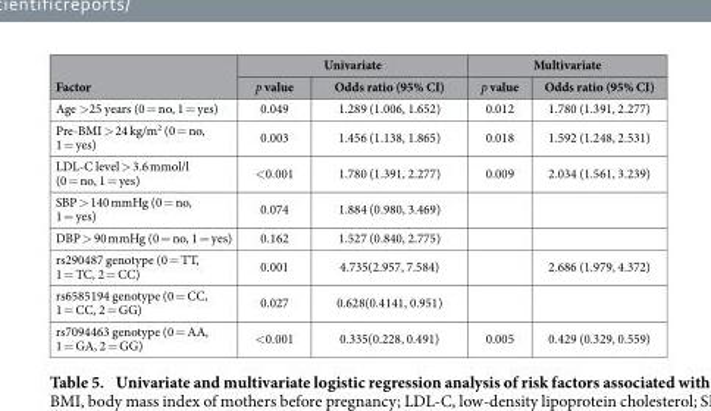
<table><thead><tr><td rowspan="2">Factor</td><td colspan="2">Univariate</td><td colspan="2">Multivariate</td></tr><tr><td>p value</td><td>Odds ratio (95% CI)</td><td>p value</td><td>Odds ratio (95% CI)</td></tr></thead><tbody><tr><td>Age &gt; 25 years (0 = no, 1 = yes)</td><td>0.049</td><td>1.289 (1.006, 1.652)</td><td>0.012</td><td>1.780 (1.391, 2.277)</td></tr><tr><td>Pre-BMI &gt; 24 kg/m<sup>2</sup> (0 = no, 1 = yes)</td><td>0.003</td><td>1.456 (1.138, 1.865)</td><td>0.018</td><td>1.592 (1.248, 2.531)</td></tr><tr><td>LDL-C level &gt; 3.6 mmol/l (0 = no, 1 = yes)</td><td>&lt; 0.001</td><td>1.780 (1.391, 2.277)</td><td>0.009</td><td>2.034 (1.561, 3.239)</td></tr><tr><td>SBP &gt; 140 mmHg (0 = no, 1 = yes)</td><td>0.074</td><td>1.884 (0.980, 3.469)</td><td></td><td></td></tr><tr><td>DBP &gt; 90 mmHg (0 = no, 1 = yes)</td><td>0.162</td><td>1.527 (0.840, 2.775)</td><td></td><td></td></tr><tr><td>rs290487 genotype (0 = TT, 1 = TC, 2 = CC)</td><td>0.001</td><td>4.735(2.957, 7.584)</td><td></td><td>2.686 (1.979, 4.372)</td></tr><tr><td>rs6585194 genotype (0 = CC, 1 = CC, 2 = GG)</td><td>0.027</td><td>0.628(0.4141, 0.951)</td><td></td><td></td></tr><tr><td>rs7094463 genotype (0 = AA, 1 = GA, 2 = GG)</td><td>&lt; 0.001</td><td>0.335(0.228, 0.491)</td><td>0.005</td><td>0.429 (0.329, 0.559)</td></tr></tbody></table>